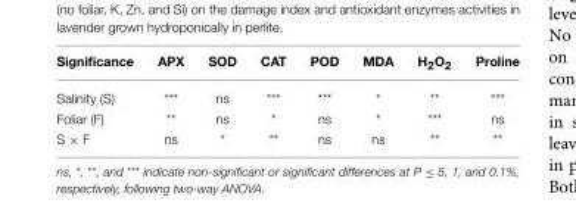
<table><thead><tr><td>Significance</td><td>APX</td><td>SOD</td><td>CAT</td><td>POD</td><td>MDA</td><td>H<sub>2</sub>O<sub>2</sub></td><td>Proline</td></tr></thead><tbody><tr><td>Salinity (S)</td><td>***</td><td>ns</td><td>***</td><td>***</td><td>*</td><td>**</td><td>***</td></tr><tr><td>Foliar (F)</td><td>**</td><td>ns</td><td>*</td><td>ns</td><td>*</td><td>***</td><td>ns</td></tr><tr><td>S × F</td><td>ns</td><td>*</td><td>**</td><td>ns</td><td>ns</td><td>**</td><td>**</td></tr></tbody></table>